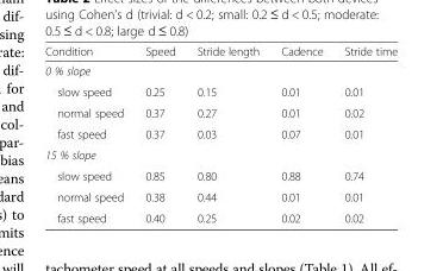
<table><thead><tr><td>Condition</td><td>Speed</td><td>Stride length</td><td>Cadence</td><td>Stride time</td></tr></thead><tbody><tr><td colspan="5">0 % slope</td></tr><tr><td>slow speed</td><td>0.25</td><td>0.15</td><td>0.01</td><td>0.01</td></tr><tr><td>normal speed</td><td>0.37</td><td>0.27</td><td>0.01</td><td>0.02</td></tr><tr><td>fast speed</td><td>0.37</td><td>0.03</td><td>0.07</td><td>0.01</td></tr><tr><td colspan="5">15 % slope</td></tr><tr><td>slow speed</td><td>0.85</td><td>0.80</td><td>0.88</td><td>0.74</td></tr><tr><td>normal speed</td><td>0.38</td><td>0.44</td><td>0.01</td><td>0.01</td></tr><tr><td>fast speed</td><td>0.40</td><td>0.25</td><td>0.02</td><td>0.02</td></tr></tbody></table>